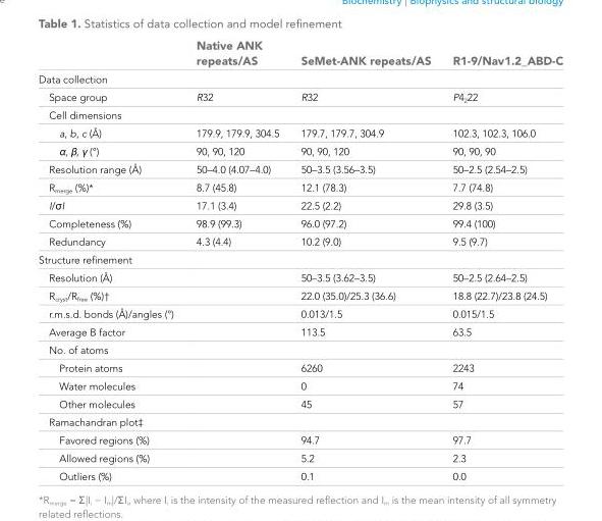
<table><thead><tr><td></td><td>Native ANK repeats/AS</td><td>SeMet-ANK repeats/AS</td><td>R1-9/Nav1.2_ABD-C</td></tr></thead><tbody><tr><td colspan="4">Data collection</td></tr><tr><td>Space group</td><td>R32</td><td>R32</td><td>P4<sub>2</sub>22</td></tr><tr><td colspan="4">Cell dimensions</td></tr><tr><td>a, b, c (Å)</td><td>179.9, 179.9, 304.5</td><td>179.7, 179.7, 304.9</td><td>102.3, 102.3, 106.0</td></tr><tr><td>α, β, γ (°)</td><td>90, 90, 120</td><td>90, 90, 120</td><td>90, 90, 90</td></tr><tr><td>Resolution range (Å)</td><td>50–4.0 (4.07–4.0)</td><td>50–3.5 (3.56–3.5)</td><td>50–2.5 (2.54–2.5)</td></tr><tr><td>R<sub>merge</sub> (%)*</td><td>8.7 (45.8)</td><td>12.1 (78.3)</td><td>7.7 (74.8)</td></tr><tr><td>I/σI</td><td>17.1 (3.4)</td><td>22.5 (2.2)</td><td>29.8 (3.5)</td></tr><tr><td>Completeness (%)</td><td>98.9 (99.3)</td><td>96.0 (97.2)</td><td>99.4 (100)</td></tr><tr><td>Redundancy</td><td>4.3 (4.4)</td><td>10.2 (9.0)</td><td>9.5 (9.7)</td></tr><tr><td colspan="4">Structure refinement</td></tr><tr><td>Resolution (Å)</td><td></td><td>50–3.5 (3.62–3.5)</td><td>50–2.5 (2.64–2.5)</td></tr><tr><td>R<sub>cryst</sub>/R<sub>free</sub> (%)†</td><td></td><td>22.0 (35.0)/25.3 (36.6)</td><td>18.8 (22.7)/23.8 (24.5)</td></tr><tr><td>r.m.s.d. bonds (Å)/angles (°)</td><td></td><td>0.013/1.5</td><td>0.015/1.5</td></tr><tr><td>Average B factor</td><td></td><td>113.5</td><td>63.5</td></tr><tr><td colspan="4">No. of atoms</td></tr><tr><td>Protein atoms</td><td></td><td>6260</td><td>2243</td></tr><tr><td>Water molecules</td><td></td><td>0</td><td>74</td></tr><tr><td>Other molecules</td><td></td><td>45</td><td>57</td></tr><tr><td colspan="4">Ramachandran plot‡</td></tr><tr><td>Favored regions (%)</td><td></td><td>94.7</td><td>97.7</td></tr><tr><td>Allowed regions (%)</td><td></td><td>5.2</td><td>2.3</td></tr><tr><td>Outliers (%)</td><td></td><td>0.1</td><td>0.0</td></tr></tbody></table>